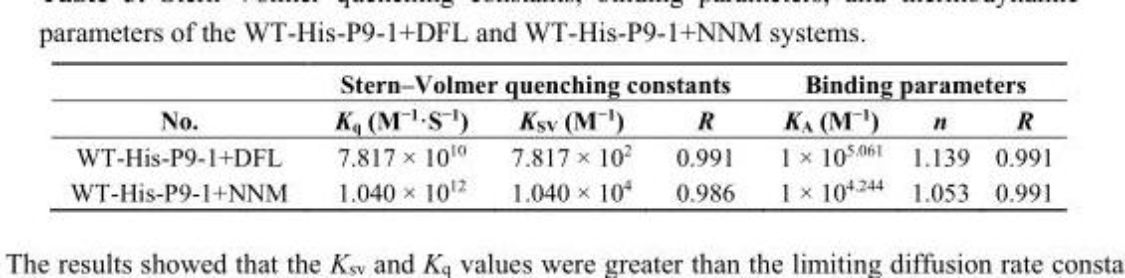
<table><thead><tr><td rowspan="2">No.</td><td colspan="3">Stern–Volmer quenching constants</td><td colspan="3">Binding parameters</td></tr><tr><td>K<sub>q</sub> (M<sup>−1</sup>·S<sup>−1</sup>)</td><td>K<sub>SV</sub> (M<sup>−1</sup>)</td><td>R</td><td>K<sub>A</sub> (M<sup>−1</sup>)</td><td>n</td><td>R</td></tr></thead><tbody><tr><td>WT-His-P9-1+DFL</td><td>7.817 × 10<sup>10</sup></td><td>7.817 × 10<sup>2</sup></td><td>0.991</td><td>1 × 10<sup>5.061</sup></td><td>1.139</td><td>0.991</td></tr><tr><td>WT-His-P9-1+NNM</td><td>1.040 × 10<sup>12</sup></td><td>1.040 × 10<sup>4</sup></td><td>0.986</td><td>1 × 10<sup>4.244</sup></td><td>1.053</td><td>0.991</td></tr></tbody></table>